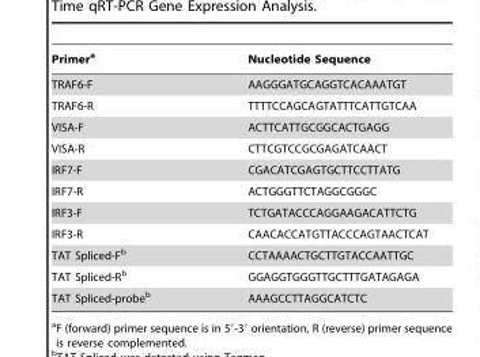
<table><thead><tr><td>Primer<sup>a</sup></td><td>Nucleotide Sequence</td></tr></thead><tbody><tr><td>TRAF6-F</td><td>AAGGGATGCAGGTCACAAATGT</td></tr><tr><td>TRAF6-R</td><td>TTTTCCAGCAGTATTTCATTGTCAA</td></tr><tr><td>VISA-F</td><td>ACTTCATTGCGGCACTGAGG</td></tr><tr><td>VISA-R</td><td>CTTCGTCCGCGAGATCAACT</td></tr><tr><td>IRF7-F</td><td>CGACATCGAGTGCTTCCTTATG</td></tr><tr><td>IRF7-R</td><td>ACTGGGTTCTAGGCGGGC</td></tr><tr><td>IRF3-F</td><td>TCTGATACCCAGGAAGACATTCTG</td></tr><tr><td>IRF3-R</td><td>CAACACCATGTTACCCAGTAACTCAT</td></tr><tr><td>TAT Spliced-F<sup>b</sup></td><td>CCTAAAACTGCTTGTACCAATTGC</td></tr><tr><td>TAT Spliced-R<sup>b</sup></td><td>GGAGGTGGGTTGCTTTGATAGAGA</td></tr><tr><td>TAT Spliced-probe<sup>b</sup></td><td>AAAGCCTTAGGCATCTC</td></tr></tbody></table>